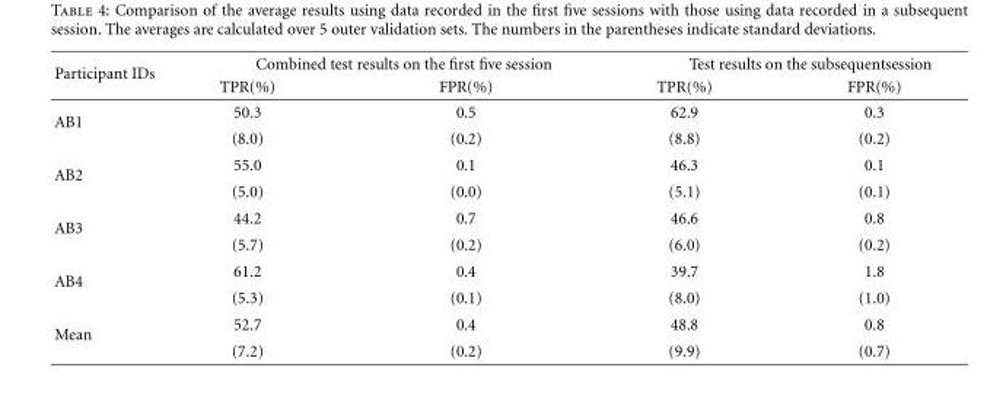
<table><thead><tr><td rowspan="2">Participant IDs</td><td colspan="2">Combined test results on the first five session</td><td colspan="2">Test results on the subsequentsession</td></tr><tr><td>TPR(%)</td><td>FPR(%)</td><td>TPR(%)</td><td>FPR(%)</td></tr></thead><tbody><tr><td rowspan="2">AB1</td><td>50.3</td><td>0.5</td><td>62.9</td><td>0.3</td></tr><tr><td>(8.0)</td><td>(0.2)</td><td>(8.8)</td><td>(0.2)</td></tr><tr><td rowspan="2">AB2</td><td>55.0</td><td>0.1</td><td>46.3</td><td>0.1</td></tr><tr><td>(5.0)</td><td>(0.0)</td><td>(5.1)</td><td>(0.1)</td></tr><tr><td rowspan="2">AB3</td><td>44.2</td><td>0.7</td><td>46.6</td><td>0.8</td></tr><tr><td>(5.7)</td><td>(0.2)</td><td>(6.0)</td><td>(0.2)</td></tr><tr><td rowspan="2">AB4</td><td>61.2</td><td>0.4</td><td>39.7</td><td>1.8</td></tr><tr><td>(5.3)</td><td>(0.1)</td><td>(8.0)</td><td>(1.0)</td></tr><tr><td rowspan="2">Mean</td><td>52.7</td><td>0.4</td><td>48.8</td><td>0.8</td></tr><tr><td>(7.2)</td><td>(0.2)</td><td>(9.9)</td><td>(0.7)</td></tr></tbody></table>